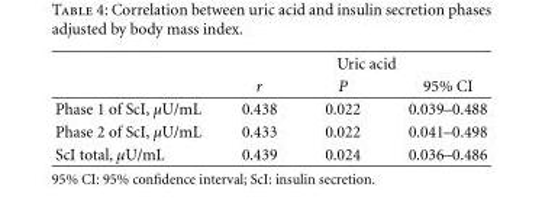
<table><thead><tr><td rowspan="2"></td><td colspan="3">Uric acid</td></tr><tr><td>r</td><td>P</td><td>95% CI</td></tr></thead><tbody><tr><td>Phase 1 of ScI, μU/mL</td><td>0.438</td><td>0.022</td><td>0.039–0.488</td></tr><tr><td>Phase 2 of ScI, μU/mL</td><td>0.433</td><td>0.022</td><td>0.041–0.498</td></tr><tr><td>ScI total, μU/mL</td><td>0.439</td><td>0.024</td><td>0.036–0.486</td></tr></tbody></table>